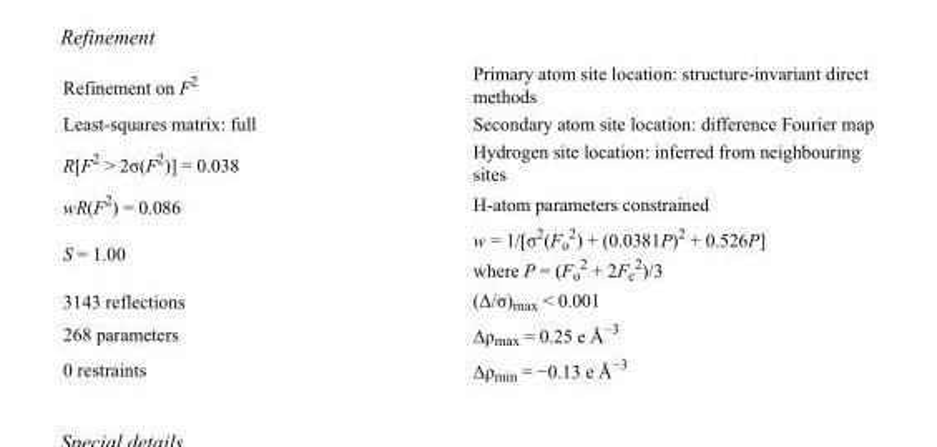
<table><tbody><tr><td>Refinement on F<sup>2</sup></td><td>Primary atom site location: structure-invariant direct methods</td></tr><tr><td>Least-squares matrix: full</td><td>Secondary atom site location: difference Fourier map</td></tr><tr><td>R[F<sup>2</sup> &gt; 2σ(F<sup>2</sup>)] = 0.038</td><td>Hydrogen site location: inferred from neighbouring sites</td></tr><tr><td>wR(F<sup>2</sup>) = 0.086</td><td>H-atom parameters constrained</td></tr><tr><td>S = 1.00</td><td>w = 1/[σ<sup>2</sup>(F<sub>o</sub> <sup>2</sup>) + (0.0381P)<sup>2</sup> + 0.526P] where P = (F<sub>o</sub> <sup>2</sup> + 2F<sub>c</sub> <sup>2</sup>)/3</td></tr><tr><td>3143 reflections</td><td>(Δ/σ)<sub>max</sub> &lt; 0.001</td></tr><tr><td>268 parameters</td><td>Δρ<sub>max</sub> = 0.25 e Å<sup>−3</sup></td></tr><tr><td>0 restraints</td><td>Δρ<sub>min</sub> = −0.13 e Å<sup>−3</sup></td></tr></tbody></table>